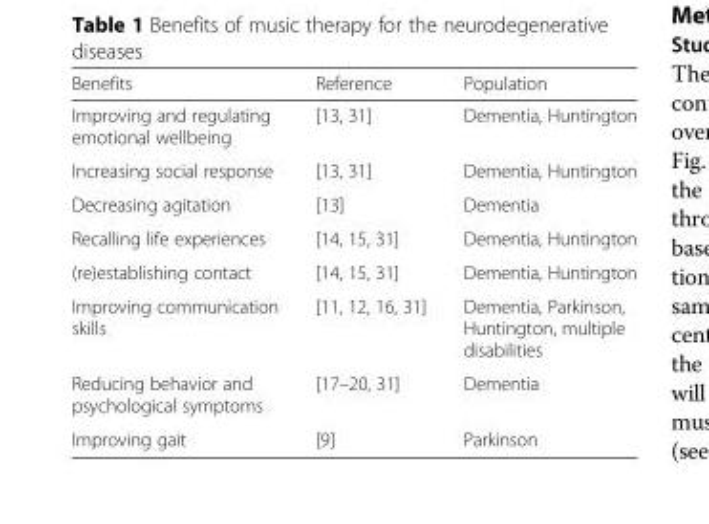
<table><thead><tr><td>Benefits</td><td>Reference</td><td>Population</td></tr></thead><tbody><tr><td>Improving and regulating emotional wellbeing</td><td>[13, 31]</td><td>Dementia, Huntington</td></tr><tr><td>Increasing social response</td><td>[13, 31]</td><td>Dementia, Huntington</td></tr><tr><td>Decreasing agitation</td><td>[13]</td><td>Dementia</td></tr><tr><td>Recalling life experiences</td><td>[14, 15, 31]</td><td>Dementia, Huntington</td></tr><tr><td>(re)establishing contact</td><td>[14, 15, 31]</td><td>Dementia, Huntington</td></tr><tr><td>Improving communication skills</td><td>[11, 12, 16, 31]</td><td>Dementia, Parkinson, Huntington, multiple disabilities</td></tr><tr><td>Reducing behavior and psychological symptoms</td><td>[17–20, 31]</td><td>Dementia</td></tr><tr><td>Improving gait</td><td>[9]</td><td>Parkinson</td></tr></tbody></table>